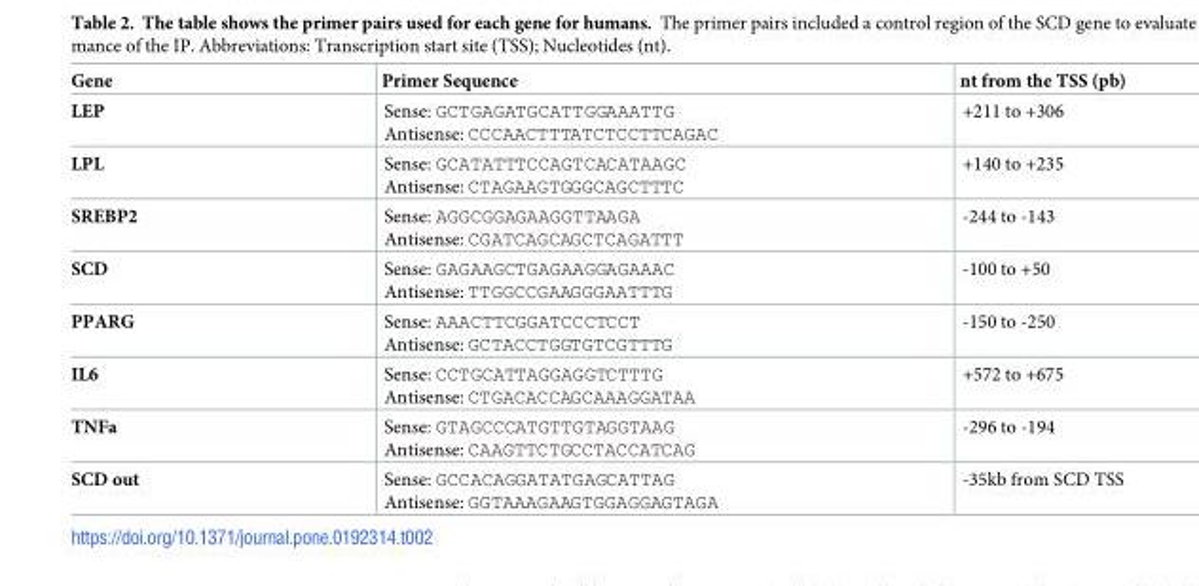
<table><thead><tr><td>Gene</td><td>Primer Sequence</td><td>nt from the TSS (pb)</td></tr></thead><tbody><tr><td>LEP</td><td>Sense: GCTGAGATGCATTGGAAATTG Antisense: CCCAACTTTATCTCCTTCAGAC</td><td>+211 to +306</td></tr><tr><td>LPL</td><td>Sense: GCATATTTCCAGTCACATAAGC Antisense: CTAGAAGTGGGCAGCTTTC</td><td>+140 to +235</td></tr><tr><td>SREBP2</td><td>Sense: AGGCGGAGAAGGTTAAGA Antisense: CGATCAGCAGCTCAGATTT</td><td>-244 to -143</td></tr><tr><td>SCD</td><td>Sense: GAGAAGCTGAGAAGGAGAAAC Antisense: TTGGCCGAAGGGAATTTG</td><td>-100 to +50</td></tr><tr><td>PPARG</td><td>Sense: AAACTTCGGATCCCTCCT Antisense: GCTACCTGGTGTCGTTTG</td><td>-150 to -250</td></tr><tr><td>IL6</td><td>Sense: CCTGCATTAGGAGGTCTTTG Antisense: CTGACACCAGCAAAGGATAA</td><td>+572 to +675</td></tr><tr><td>TNFa</td><td>Sense: GTAGCCCATGTTGTAGGTAAG Antisense: CAAGTTCTGCCTACCATCAG</td><td>-296 to -194</td></tr><tr><td>SCD out</td><td>Sense: GCCACAGGATATGAGCATTAG Antisense: GGTAAAGAAGTGGAGGAGTAGA</td><td>-35kb from SCD TSS</td></tr></tbody></table>